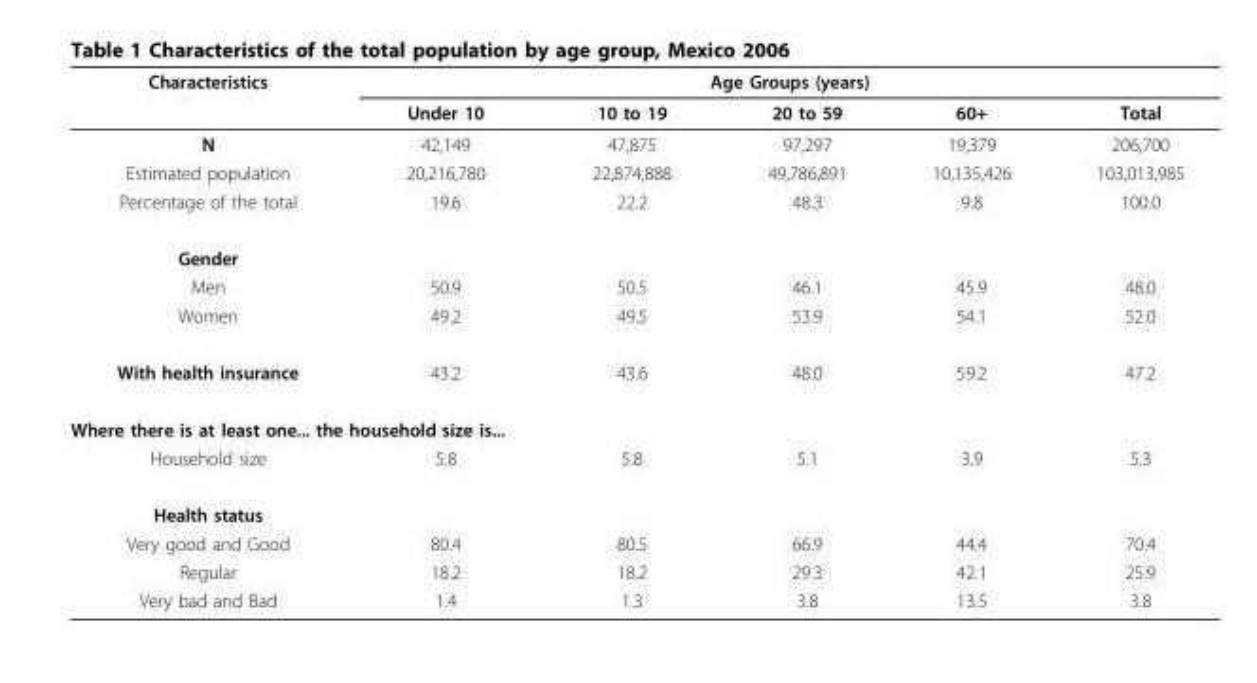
<table><tbody><tr><td rowspan="2">Characteristics</td><td colspan="5">Age Groups (years)</td></tr><tr><td>Under 10</td><td>10 to 19</td><td>20 to 59</td><td>60+</td><td>Total</td></tr><tr><td>N</td><td>42,149</td><td>47,875</td><td>97,297</td><td>19,379</td><td>206,700</td></tr><tr><td>Estimated population</td><td>20,216,780</td><td>22,874,888</td><td>49,786,891</td><td>10,135,426</td><td>103,013,985</td></tr><tr><td>Percentage of the total</td><td>19.6</td><td>22.2</td><td>48.3</td><td>9.8</td><td>100.0</td></tr><tr><td colspan="6">Gender</td></tr><tr><td>Men</td><td>50.9</td><td>50.5</td><td>46.1</td><td>45.9</td><td>48.0</td></tr><tr><td>Women</td><td>49.2</td><td>49.5</td><td>53.9</td><td>54.1</td><td>52.0</td></tr><tr><td>With health insurance</td><td>43.2</td><td>43.6</td><td>48.0</td><td>59.2</td><td>47.2</td></tr><tr><td colspan="6">Where there is at least one... the household size is...</td></tr><tr><td>Household size</td><td>5.8</td><td>5.8</td><td>5.1</td><td>3.9</td><td>5.3</td></tr><tr><td colspan="6">Health status</td></tr><tr><td>Very good and Good</td><td>80.4</td><td>80.5</td><td>66.9</td><td>44.4</td><td>70.4</td></tr><tr><td>Regular</td><td>18.2</td><td>18.2</td><td>29.3</td><td>42.1</td><td>25.9</td></tr><tr><td>Very bad and Bad</td><td>1.4</td><td>1.3</td><td>3.8</td><td>13.5</td><td>3.8</td></tr></tbody></table>